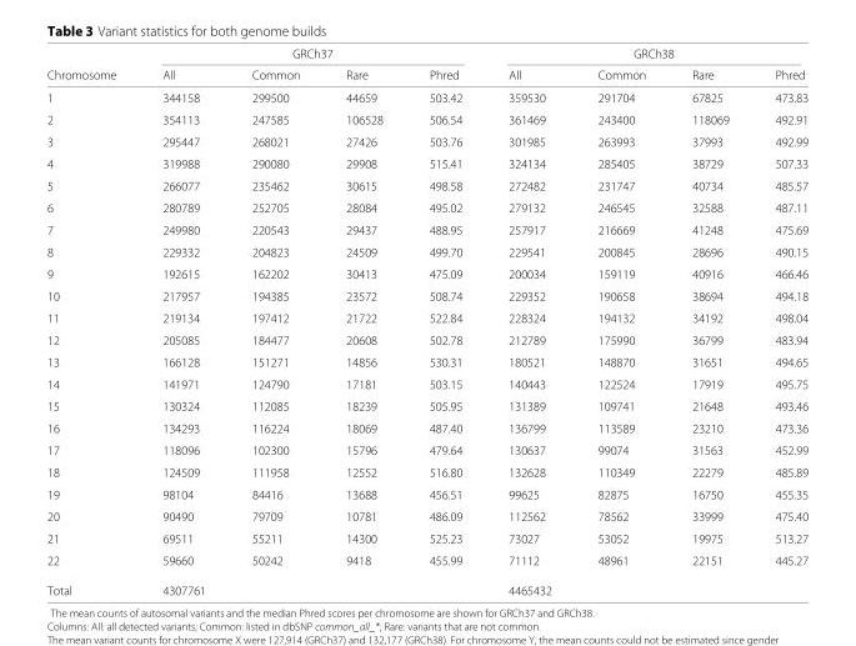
<table><thead><tr><td rowspan="2">Chromosome</td><td colspan="4">GRCh37</td><td colspan="4">GRCh38</td></tr><tr><td>All</td><td>Common</td><td>Rare</td><td>Phred</td><td>All</td><td>Common</td><td>Rare</td><td>Phred</td></tr></thead><tbody><tr><td>1</td><td>344158</td><td>299500</td><td>44659</td><td>503.42</td><td>359530</td><td>291704</td><td>67825</td><td>473.83</td></tr><tr><td>2</td><td>354113</td><td>247585</td><td>106528</td><td>506.54</td><td>361469</td><td>243400</td><td>118069</td><td>492.91</td></tr><tr><td>3</td><td>295447</td><td>268021</td><td>27426</td><td>503.76</td><td>301985</td><td>263993</td><td>37993</td><td>492.99</td></tr><tr><td>4</td><td>319988</td><td>290080</td><td>29908</td><td>515.41</td><td>324134</td><td>285405</td><td>38729</td><td>507.33</td></tr><tr><td>5</td><td>266077</td><td>235462</td><td>30615</td><td>498.58</td><td>272482</td><td>231747</td><td>40734</td><td>485.57</td></tr><tr><td>6</td><td>280789</td><td>252705</td><td>28084</td><td>495.02</td><td>279132</td><td>246545</td><td>32588</td><td>487.11</td></tr><tr><td>7</td><td>249980</td><td>220543</td><td>29437</td><td>488.95</td><td>257917</td><td>216669</td><td>41248</td><td>475.69</td></tr><tr><td>8</td><td>229332</td><td>204823</td><td>24509</td><td>499.70</td><td>229541</td><td>200845</td><td>28696</td><td>490.15</td></tr><tr><td>9</td><td>192615</td><td>162202</td><td>30413</td><td>475.09</td><td>200034</td><td>159119</td><td>40916</td><td>466.46</td></tr><tr><td>10</td><td>217957</td><td>194385</td><td>23572</td><td>508.74</td><td>229352</td><td>190658</td><td>38694</td><td>494.18</td></tr><tr><td>11</td><td>219134</td><td>197412</td><td>21722</td><td>522.84</td><td>228324</td><td>194132</td><td>34192</td><td>498.04</td></tr><tr><td>12</td><td>205085</td><td>184477</td><td>20608</td><td>502.78</td><td>212789</td><td>175990</td><td>36799</td><td>483.94</td></tr><tr><td>13</td><td>166128</td><td>151271</td><td>14856</td><td>530.31</td><td>180521</td><td>148870</td><td>31651</td><td>494.65</td></tr><tr><td>14</td><td>141971</td><td>124790</td><td>17181</td><td>503.15</td><td>140443</td><td>122524</td><td>17919</td><td>495.75</td></tr><tr><td>15</td><td>130324</td><td>112085</td><td>18239</td><td>505.95</td><td>131389</td><td>109741</td><td>21648</td><td>493.46</td></tr><tr><td>16</td><td>134293</td><td>116224</td><td>18069</td><td>487.40</td><td>136799</td><td>113589</td><td>23210</td><td>473.36</td></tr><tr><td>17</td><td>118096</td><td>102300</td><td>15796</td><td>479.64</td><td>130637</td><td>99074</td><td>31563</td><td>452.99</td></tr><tr><td>18</td><td>124509</td><td>111958</td><td>12552</td><td>516.80</td><td>132628</td><td>110349</td><td>22279</td><td>485.89</td></tr><tr><td>19</td><td>98104</td><td>84416</td><td>13688</td><td>456.51</td><td>99625</td><td>82875</td><td>16750</td><td>455.35</td></tr><tr><td>20</td><td>90490</td><td>79709</td><td>10781</td><td>486.09</td><td>112562</td><td>78562</td><td>33999</td><td>475.40</td></tr><tr><td>21</td><td>69511</td><td>55211</td><td>14300</td><td>525.23</td><td>73027</td><td>53052</td><td>19975</td><td>513.27</td></tr><tr><td>22</td><td>59660</td><td>50242</td><td>9418</td><td>455.99</td><td>71112</td><td>48961</td><td>22151</td><td>445.27</td></tr><tr><td>Total</td><td>4307761</td><td></td><td></td><td></td><td>4465432</td><td></td><td></td><td></td></tr></tbody></table>